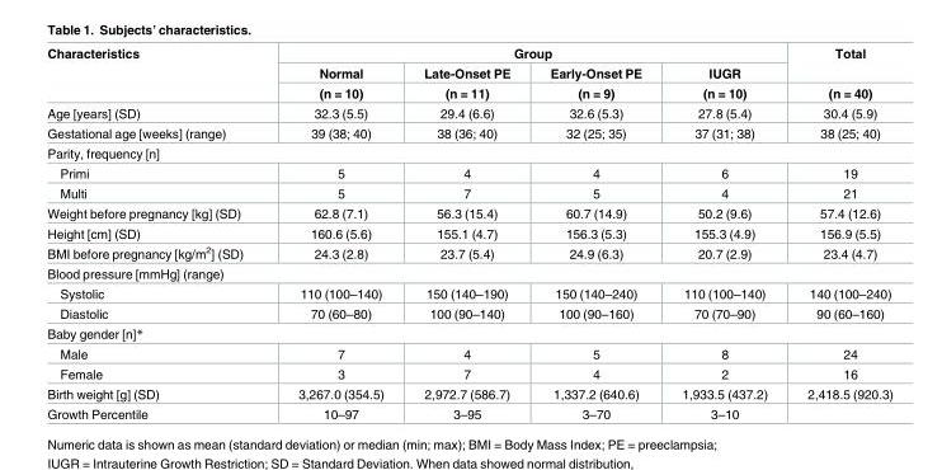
<table><thead><tr><td rowspan="3">Characteristics</td><td colspan="4">Group</td><td rowspan="3">Total (n = 40)</td></tr><tr><td rowspan="2">Normal (n = 10)</td><td rowspan="2">Late-Onset PE (n = 11)</td><td rowspan="2">Early-Onset PE (n = 9)</td><td rowspan="2">IUGR (n = 10)</td></tr><tr></tr></thead><tbody><tr><td>Age [years] (SD)</td><td>32.3 (5.5)</td><td>29.4 (6.6)</td><td>32.6 (5.3)</td><td>27.8 (5.4)</td><td>30.4 (5.9)</td></tr><tr><td>Gestational age [weeks] (range)</td><td>39 (38; 40)</td><td>38 (36; 40)</td><td>32 (25; 35)</td><td>37 (31; 38)</td><td>38 (25; 40)</td></tr><tr><td colspan="6">Parity, frequency [n]</td></tr><tr><td>Primi</td><td>5</td><td>4</td><td>4</td><td>6</td><td>19</td></tr><tr><td>Multi</td><td>5</td><td>7</td><td>5</td><td>4</td><td>21</td></tr><tr><td>Weight before pregnancy [kg] (SD)</td><td>62.8 (7.1)</td><td>56.3 (15.4)</td><td>60.7 (14.9)</td><td>50.2 (9.6)</td><td>57.4 (12.6)</td></tr><tr><td>Height [cm] (SD)</td><td>160.6 (5.6)</td><td>155.1 (4.7)</td><td>156.3 (5.3)</td><td>155.3 (4.9)</td><td>156.9 (5.5)</td></tr><tr><td>BMI before pregnancy [kg/m<sup>2</sup>] (SD)</td><td>24.3 (2.8)</td><td>23.7 (5.4)</td><td>24.9 (6.3)</td><td>20.7 (2.9)</td><td>23.4 (4.7)</td></tr><tr><td colspan="6">Blood pressure [mmHg] (range)</td></tr><tr><td>Systolic</td><td>110 (100–140)</td><td>150 (140–190)</td><td>150 (140–240)</td><td>110 (100–140)</td><td>140 (100–240)</td></tr><tr><td>Diastolic</td><td>70 (60–80)</td><td>100 (90–140)</td><td>100 (90–160)</td><td>70 (70–90)</td><td>90 (60–160)</td></tr><tr><td colspan="6">Baby gender [n]*</td></tr><tr><td>Male</td><td>7</td><td>4</td><td>5</td><td>8</td><td>24</td></tr><tr><td>Female</td><td>3</td><td>7</td><td>4</td><td>2</td><td>16</td></tr><tr><td>Birth weight [g] (SD)</td><td>3,267.0 (354.5)</td><td>2,972.7 (586.7)</td><td>1,337.2 (640.6)</td><td>1,933.5 (437.2)</td><td>2,418.5 (920.3)</td></tr><tr><td>Growth Percentile</td><td>10–97</td><td>3–95</td><td>3–70</td><td>3–10</td><td></td></tr></tbody></table>